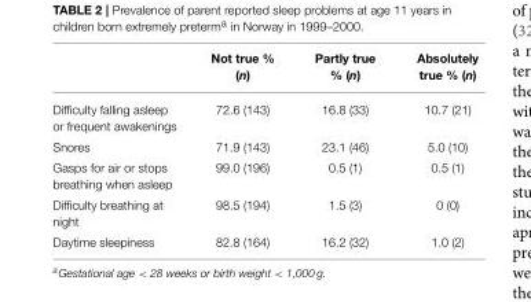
<table><thead><tr><td></td><td>Not true % (n)</td><td>Partly true % (n)</td><td>Absolutely true % (n)</td></tr></thead><tbody><tr><td>Difficulty falling asleep or frequent awakenings</td><td>72.6 (143)</td><td>16.8 (33)</td><td>10.7 (21)</td></tr><tr><td>Snores</td><td>71.9 (143)</td><td>23.1 (46)</td><td>5.0 (10)</td></tr><tr><td>Gasps for air or stops breathing when asleep</td><td>99.0 (196)</td><td>0.5 (1)</td><td>0.5 (1)</td></tr><tr><td>Difficulty breathing at night</td><td>98.5 (194)</td><td>1.5 (3)</td><td>0 (0)</td></tr><tr><td>Daytime sleepiness</td><td>82.8 (164)</td><td>16.2 (32)</td><td>1.0 (2)</td></tr></tbody></table>